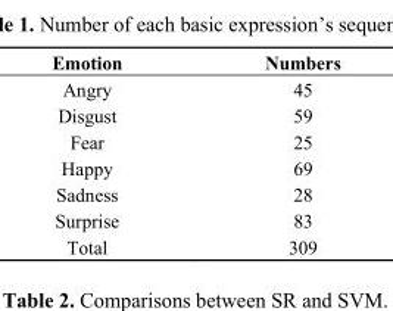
<table><thead><tr><td>Emotion</td><td>Numbers</td></tr></thead><tbody><tr><td>Angry</td><td>45</td></tr><tr><td>Disgust</td><td>59</td></tr><tr><td>Fear</td><td>25</td></tr><tr><td>Happy</td><td>69</td></tr><tr><td>Sadness</td><td>28</td></tr><tr><td>Surprise</td><td>83</td></tr><tr><td>Total</td><td>309</td></tr></tbody></table>